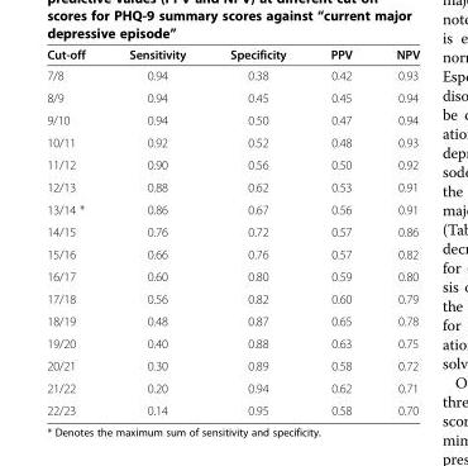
<table><thead><tr><td>Cut-off</td><td>Sensitivity</td><td>Specificity</td><td>PPV</td><td>NPV</td></tr></thead><tbody><tr><td>7/8</td><td>0.94</td><td>0.38</td><td>0.42</td><td>0.93</td></tr><tr><td>8/9</td><td>0.94</td><td>0.45</td><td>0.45</td><td>0.94</td></tr><tr><td>9/10</td><td>0.94</td><td>0.50</td><td>0.47</td><td>0.94</td></tr><tr><td>10/11</td><td>0.92</td><td>0.52</td><td>0.48</td><td>0.93</td></tr><tr><td>11/12</td><td>0.90</td><td>0.56</td><td>0.50</td><td>0.92</td></tr><tr><td>12/13</td><td>0.88</td><td>0.62</td><td>0.53</td><td>0.91</td></tr><tr><td>13/14 *</td><td>0.86</td><td>0.67</td><td>0.56</td><td>0.91</td></tr><tr><td>14/15</td><td>0.76</td><td>0.72</td><td>0.57</td><td>0.86</td></tr><tr><td>15/16</td><td>0.66</td><td>0.76</td><td>0.57</td><td>0.82</td></tr><tr><td>16/17</td><td>0.60</td><td>0.80</td><td>0.59</td><td>0.80</td></tr><tr><td>17/18</td><td>0.56</td><td>0.82</td><td>0.60</td><td>0.79</td></tr><tr><td>18/19</td><td>0.48</td><td>0.87</td><td>0.65</td><td>0.78</td></tr><tr><td>19/20</td><td>0.40</td><td>0.88</td><td>0.63</td><td>0.75</td></tr><tr><td>20/21</td><td>0.30</td><td>0.89</td><td>0.58</td><td>0.72</td></tr><tr><td>21/22</td><td>0.20</td><td>0.94</td><td>0.62</td><td>0.71</td></tr><tr><td>22/23</td><td>0.14</td><td>0.95</td><td>0.58</td><td>0.70</td></tr></tbody></table>